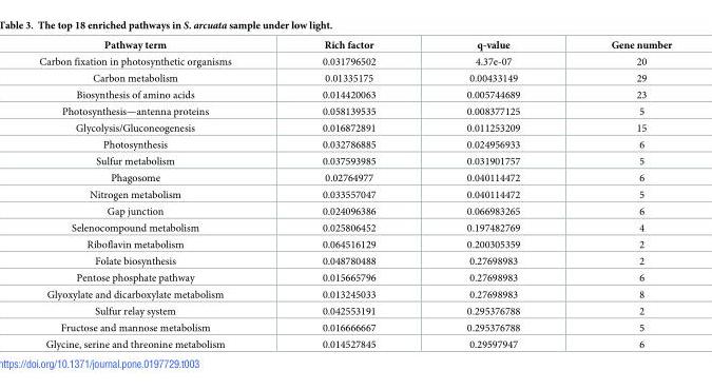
<table><thead><tr><td>Pathway term</td><td>Rich factor</td><td>q-value</td><td>Gene number</td></tr></thead><tbody><tr><td>Carbon fixation in photosynthetic organisms</td><td>0.031796502</td><td>4.37e-07</td><td>20</td></tr><tr><td>Carbon metabolism</td><td>0.01335175</td><td>0.00433149</td><td>29</td></tr><tr><td>Biosynthesis of amino acids</td><td>0.014420063</td><td>0.005744689</td><td>23</td></tr><tr><td>Photosynthesis—antenna proteins</td><td>0.058139535</td><td>0.008377125</td><td>5</td></tr><tr><td>Glycolysis/Gluconeogenesis</td><td>0.016872891</td><td>0.011253209</td><td>15</td></tr><tr><td>Photosynthesis</td><td>0.032786885</td><td>0.024956933</td><td>6</td></tr><tr><td>Sulfur metabolism</td><td>0.037593985</td><td>0.031901757</td><td>5</td></tr><tr><td>Phagosome</td><td>0.02764977</td><td>0.040114472</td><td>6</td></tr><tr><td>Nitrogen metabolism</td><td>0.033557047</td><td>0.040114472</td><td>5</td></tr><tr><td>Gap junction</td><td>0.024096386</td><td>0.066983265</td><td>6</td></tr><tr><td>Selenocompound metabolism</td><td>0.025806452</td><td>0.197482769</td><td>4</td></tr><tr><td>Riboflavin metabolism</td><td>0.064516129</td><td>0.200305359</td><td>2</td></tr><tr><td>Folate biosynthesis</td><td>0.048780488</td><td>0.27698983</td><td>2</td></tr><tr><td>Pentose phosphate pathway</td><td>0.015665796</td><td>0.27698983</td><td>6</td></tr><tr><td>Glyoxylate and dicarboxylate metabolism</td><td>0.013245033</td><td>0.27698983</td><td>8</td></tr><tr><td>Sulfur relay system</td><td>0.042553191</td><td>0.295376788</td><td>2</td></tr><tr><td>Fructose and mannose metabolism</td><td>0.016666667</td><td>0.295376788</td><td>5</td></tr><tr><td>Glycine, serine and threonine metabolism</td><td>0.014527845</td><td>0.29597947</td><td>6</td></tr></tbody></table>